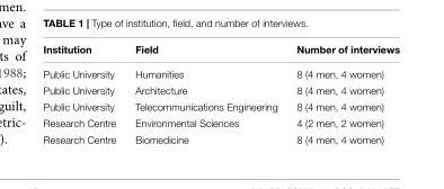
<table><thead><tr><td>Institution</td><td>Field</td><td>Number of interviews</td></tr></thead><tbody><tr><td>Public University</td><td>Humanities</td><td>8 (4 men, 4 women)</td></tr><tr><td>Public University</td><td>Architecture</td><td>8 (4 men, 4 women)</td></tr><tr><td>Public University</td><td>Telecommunications Engineering</td><td>8 (4 men, 4 women)</td></tr><tr><td>Research Centre</td><td>Environmental Sciences</td><td>4 (2 men, 2 women)</td></tr><tr><td>Research Centre</td><td>Biomedicine</td><td>8 (4 men, 4 women)</td></tr></tbody></table>